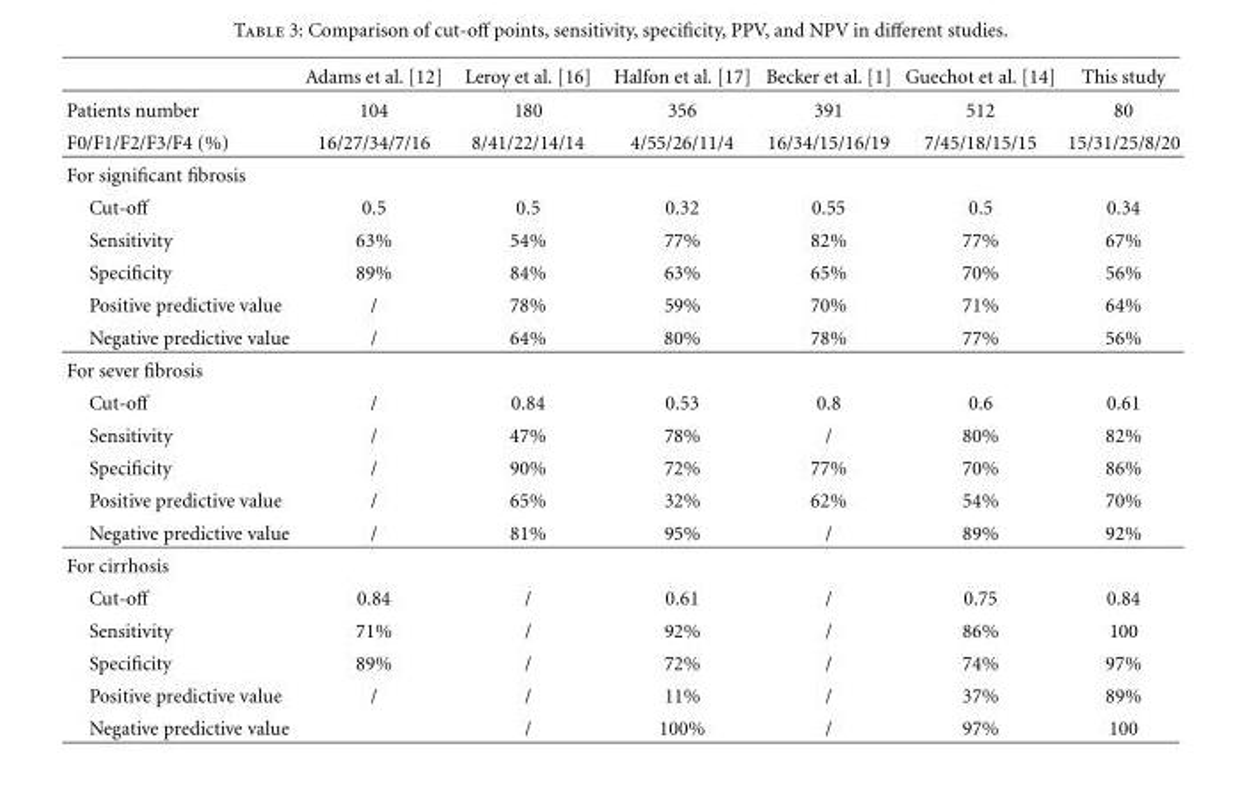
<table><thead><tr><td></td><td>Adams et al. [12]</td><td>Leroy et al. [16]</td><td>Halfon et al. [17]</td><td>Becker et al. [1]</td><td>Guechot et al. [14]</td><td>This study</td></tr></thead><tbody><tr><td>Patients number</td><td>104</td><td>180</td><td>356</td><td>391</td><td>512</td><td>80</td></tr><tr><td>F0/F1/F2/F3/F4 (%)</td><td>16/27/34/7/16</td><td>8/41/22/14/14</td><td>4/55/26/11/4</td><td>16/34/15/16/19</td><td>7/45/18/15/15</td><td>15/31/25/8/20</td></tr><tr><td colspan="7">For significant fibrosis</td></tr><tr><td>Cut-off</td><td>0.5</td><td>0.5</td><td>0.32</td><td>0.55</td><td>0.5</td><td>0.34</td></tr><tr><td>Sensitivity</td><td>63%</td><td>54%</td><td>77%</td><td>82%</td><td>77%</td><td>67%</td></tr><tr><td>Specificity</td><td>89%</td><td>84%</td><td>63%</td><td>65%</td><td>70%</td><td>56%</td></tr><tr><td>Positive predictive value</td><td>/</td><td>78%</td><td>59%</td><td>70%</td><td>71%</td><td>64%</td></tr><tr><td>Negative predictive value</td><td>/</td><td>64%</td><td>80%</td><td>78%</td><td>77%</td><td>56%</td></tr><tr><td colspan="7">For sever fibrosis</td></tr><tr><td>Cut-off</td><td>/</td><td>0.84</td><td>0.53</td><td>0.8</td><td>0.6</td><td>0.61</td></tr><tr><td>Sensitivity</td><td>/</td><td>47%</td><td>78%</td><td>/</td><td>80%</td><td>82%</td></tr><tr><td>Specificity</td><td>/</td><td>90%</td><td>72%</td><td>77%</td><td>70%</td><td>86%</td></tr><tr><td>Positive predictive value</td><td>/</td><td>65%</td><td>32%</td><td>62%</td><td>54%</td><td>70%</td></tr><tr><td>Negative predictive value</td><td>/</td><td>81%</td><td>95%</td><td>/</td><td>89%</td><td>92%</td></tr><tr><td colspan="7">For cirrhosis</td></tr><tr><td>Cut-off</td><td>0.84</td><td>/</td><td>0.61</td><td>/</td><td>0.75</td><td>0.84</td></tr><tr><td>Sensitivity</td><td>71%</td><td>/</td><td>92%</td><td>/</td><td>86%</td><td>100</td></tr><tr><td>Specificity</td><td>89%</td><td>/</td><td>72%</td><td>/</td><td>74%</td><td>97%</td></tr><tr><td>Positive predictive value</td><td>/</td><td>/</td><td>11%</td><td>/</td><td>37%</td><td>89%</td></tr><tr><td>Negative predictive value</td><td></td><td>/</td><td>100%</td><td>/</td><td>97%</td><td>100</td></tr></tbody></table>